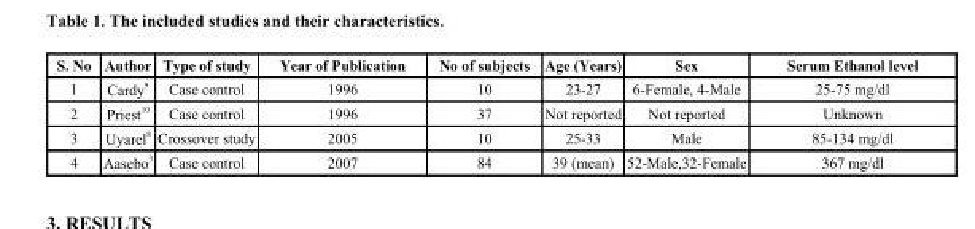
<table><thead><tr><td>S. No</td><td>Author</td><td>Type of study</td><td>Year of Publication</td><td>No of subjects</td><td>Age (Years)</td><td>Sex</td><td>Serum Ethanol level</td></tr></thead><tbody><tr><td>1</td><td>Cardy <sup>9</sup></td><td>Case control</td><td>1996</td><td>10</td><td>23-27</td><td>6-Female, 4-Male</td><td>25-75 mg/dl</td></tr><tr><td>2</td><td>Priest <sup>10</sup></td><td>Case control</td><td>1996</td><td>37</td><td>Not reported</td><td>Not reported</td><td>Unknown</td></tr><tr><td>3</td><td>Uyarel <sup>8</sup></td><td>Crossover study</td><td>2005</td><td>10</td><td>25-33</td><td>Male</td><td>85-134 mg/dl</td></tr><tr><td>4</td><td>Aasebo <sup>3</sup></td><td>Case control</td><td>2007</td><td>84</td><td>39 (mean)</td><td>52-Male,32-Female</td><td>367 mg/dl</td></tr></tbody></table>